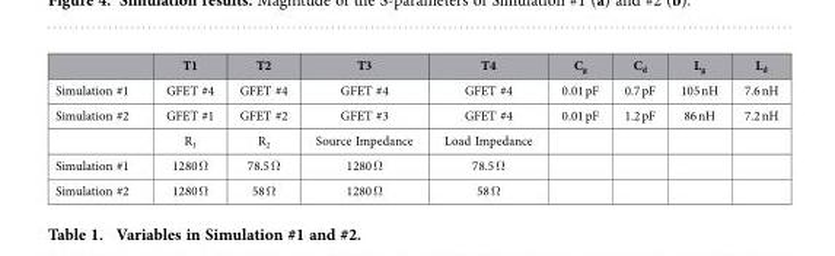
<table><thead><tr><td></td><td>T1</td><td>T2</td><td>T3</td><td>T4</td><td>C<sub>g</sub></td><td>C<sub>d</sub></td><td>L<sub>g</sub></td><td>L<sub>d</sub></td></tr></thead><tbody><tr><td>Simulation #1</td><td>GFET #4</td><td>GFET #4</td><td>GFET #4</td><td>GFET #4</td><td>0.01 pF</td><td>0.7 pF</td><td>105 nH</td><td>7.6 nH</td></tr><tr><td rowspan="2">Simulation #2</td><td>GFET #1</td><td>GFET #2</td><td>GFET #3</td><td>GFET #4</td><td>0.01 pF</td><td>1.2 pF</td><td>86 nH</td><td>7.2 nH</td></tr><tr><td>R<sub>1</sub></td><td>R<sub>2</sub></td><td>Source Impedance</td><td>Load Impedance</td><td></td><td></td><td></td><td></td></tr><tr><td>Simulation #1</td><td>1280 Ω</td><td>78.5 Ω</td><td>1280 Ω</td><td>78.5 Ω</td><td></td><td></td><td></td><td></td></tr><tr><td>Simulation #2</td><td>1280 Ω</td><td>58 Ω</td><td>1280 Ω</td><td>58 Ω</td><td></td><td></td><td></td><td></td></tr></tbody></table>